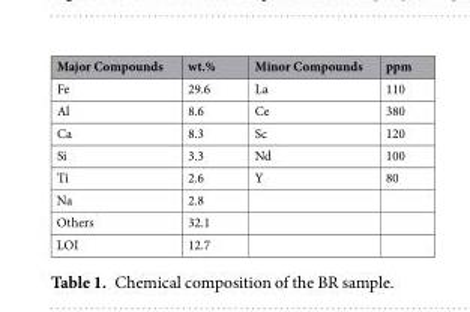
<table><thead><tr><td>Major Compounds</td><td>wt.%</td><td>Minor Compounds</td><td>ppm</td></tr></thead><tbody><tr><td>Fe</td><td>29.6</td><td>La</td><td>110</td></tr><tr><td>Al</td><td>8.6</td><td>Ce</td><td>380</td></tr><tr><td>Ca</td><td>8.3</td><td>Sc</td><td>120</td></tr><tr><td>Si</td><td>3.3</td><td>Nd</td><td>100</td></tr><tr><td>Ti</td><td>2.6</td><td>Y</td><td>80</td></tr><tr><td>Na</td><td>2.8</td><td></td><td></td></tr><tr><td>Others</td><td>32.1</td><td></td><td></td></tr><tr><td>LOI</td><td>12.7</td><td></td><td></td></tr></tbody></table>